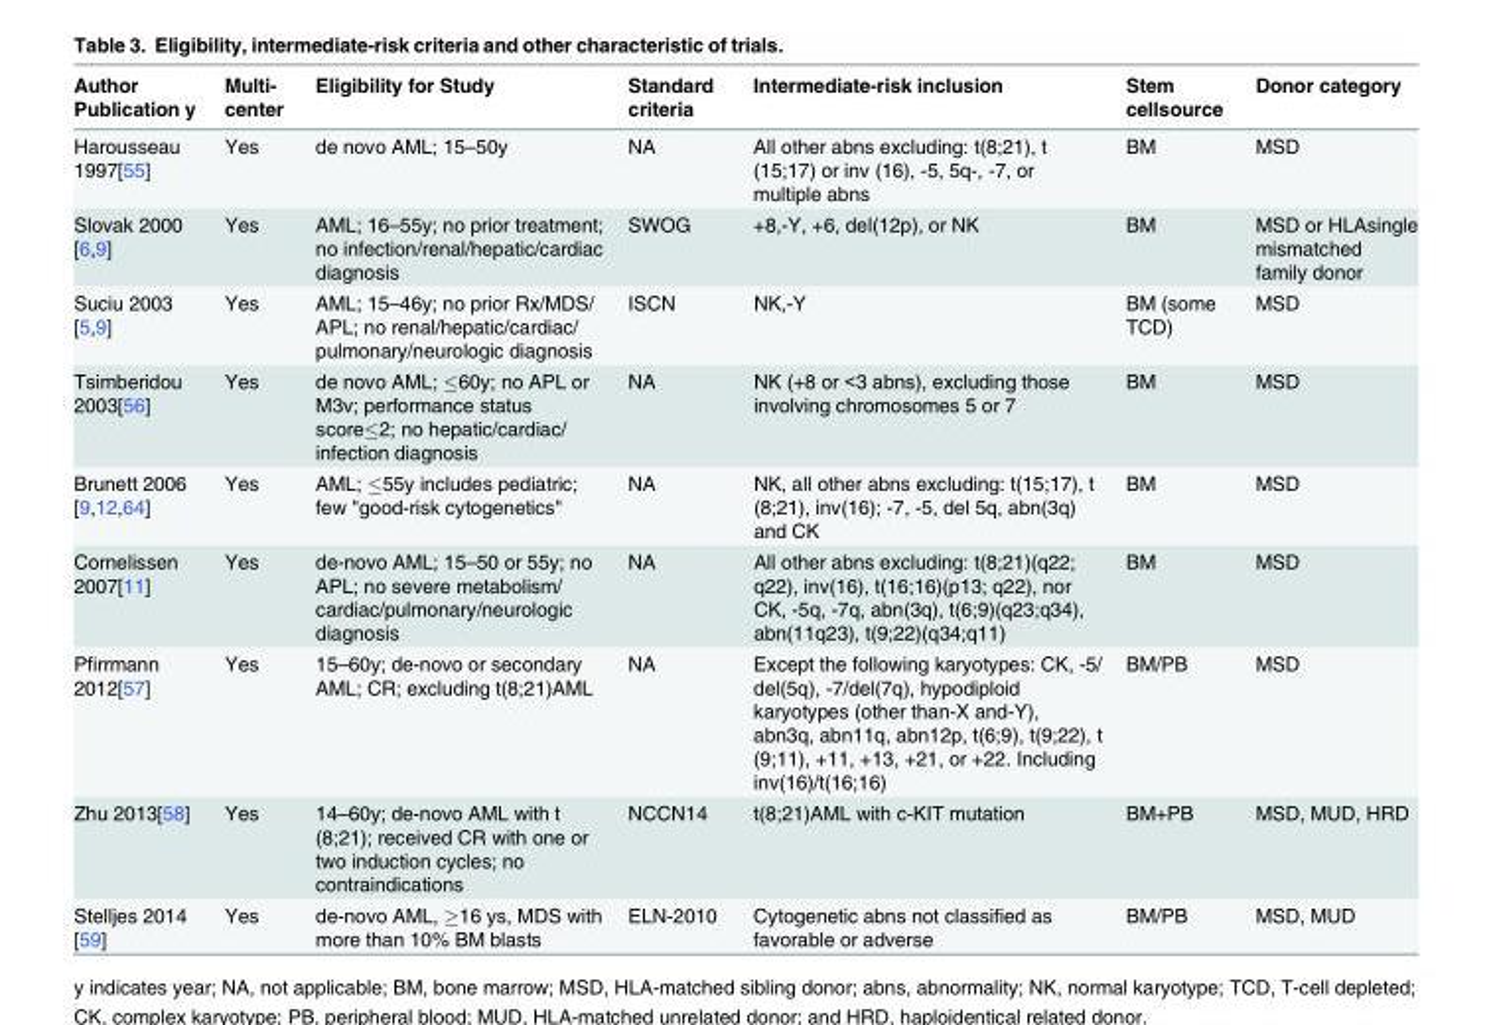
<table><thead><tr><td>Author Publication y</td><td>Multi- center</td><td>Eligibility for Study</td><td>Standard criteria</td><td>Intermediate-risk inclusion</td><td>Stem cellsource</td><td>Donor category</td></tr></thead><tbody><tr><td>Harousseau 1997[55]</td><td>Yes</td><td>de novo AML; 15–50y</td><td>NA</td><td>All other abns excluding: t(8;21), t (15;17) or inv (16), -5, 5q-, -7, or multiple abns</td><td>BM</td><td>MSD</td></tr><tr><td>Slovak 2000 [6,9]</td><td>Yes</td><td>AML; 16–55y; no prior treatment; no infection/renal/hepatic/cardiac diagnosis</td><td>SWOG</td><td>+8,-Y, +6, del(12p), or NK</td><td>BM</td><td>MSD or HLAsingle mismatched family donor</td></tr><tr><td>Suciu 2003 [5,9]</td><td>Yes</td><td>AML; 15–46y; no prior Rx/MDS/ APL; no renal/hepatic/cardiac/ pulmonary/neurologic diagnosis</td><td>ISCN</td><td>NK,-Y</td><td>BM (some TCD)</td><td>MSD</td></tr><tr><td>Tsimberidou 2003[56]</td><td>Yes</td><td>de novo AML; ≤60y; no APL or M3v; performance status score≤2; no hepatic/cardiac/ infection diagnosis</td><td>NA</td><td>NK (+8 or &lt;3 abns), excluding those involving chromosomes 5 or 7</td><td>BM</td><td>MSD</td></tr><tr><td>Brunett 2006 [9,12,64]</td><td>Yes</td><td>AML; ≤55y includes pediatric; few &quot;good-risk cytogenetics&quot;</td><td>NA</td><td>NK, all other abns excluding: t(15;17), t (8;21), inv(16); -7, -5, del 5q, abn(3q) and CK</td><td>BM</td><td>MSD</td></tr><tr><td>Cornelissen 2007[11]</td><td>Yes</td><td>de-novo AML; 15–50 or 55y; no APL; no severe metabolism/ cardiac/pulmonary/neurologic diagnosis</td><td>NA</td><td>All other abns excluding: t(8;21)(q22; q22), inv(16), t(16;16)(p13; q22), nor CK, -5q, -7q, abn(3q), t(6;9)(q23;q34), abn(11q23), t(9;22)(q34;q11)</td><td>BM</td><td>MSD</td></tr><tr><td>Pfirrmann 2012[57]</td><td>Yes</td><td>15–60y; de-novo or secondary AML; CR; excluding t(8;21)AML</td><td>NA</td><td>Except the following karyotypes: CK, -5/ del(5q), -7/del(7q), hypodiploid karyotypes (other than-X and-Y), abn3q, abn11q, abn12p, t(6;9), t(9;22), t (9;11), +11, +13, +21, or +22. Including inv(16)/t(16;16)</td><td>BM/PB</td><td>MSD</td></tr><tr><td>Zhu 2013[58]</td><td>Yes</td><td>14–60y; de-novo AML with t (8;21); received CR with one or two induction cycles; no contraindications</td><td>NCCN14</td><td>t(8;21)AML with c-KIT mutation</td><td>BM+PB</td><td>MSD, MUD, HRD</td></tr><tr><td>Stelljes 2014 [59]</td><td>Yes</td><td>de-novo AML, ≥16 ys, MDS with more than 10% BM blasts</td><td>ELN-2010</td><td>Cytogenetic abns not classified as favorable or adverse</td><td>BM/PB</td><td>MSD, MUD</td></tr></tbody></table>